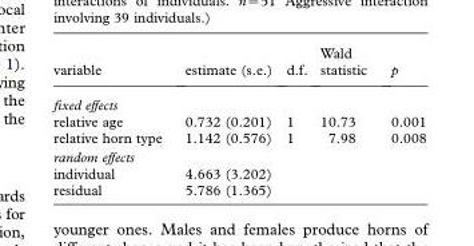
<table><thead><tr><td>variable</td><td>estimate (s.e.)</td><td>d.f.</td><td>Wald statistic</td><td>p</td></tr></thead><tbody><tr><td colspan="5">fixed effects</td></tr><tr><td>relative age</td><td>0.732 (0.201)</td><td>1</td><td>10.73</td><td>0.001</td></tr><tr><td>relative horn type</td><td>1.142 (0.576)</td><td>1</td><td>7.98</td><td>0.008</td></tr><tr><td colspan="5">random effects</td></tr><tr><td>individual</td><td>4.663 (3.202)</td><td></td><td></td><td></td></tr><tr><td>residual</td><td>5.786 (1.365)</td><td></td><td></td><td></td></tr></tbody></table>